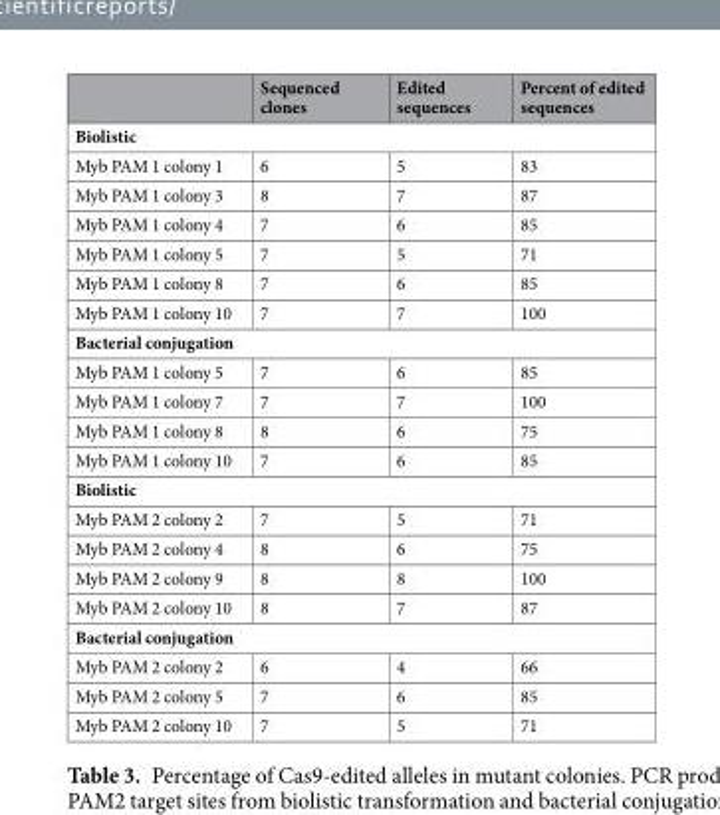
<table><thead><tr><td></td><td>Sequenced clones</td><td>Edited sequences</td><td>Percent of edited sequences</td></tr></thead><tbody><tr><td colspan="4">Biolistic</td></tr><tr><td>Myb PAM 1 colony 1</td><td>6</td><td>5</td><td>83</td></tr><tr><td>Myb PAM 1 colony 3</td><td>8</td><td>7</td><td>87</td></tr><tr><td>Myb PAM 1 colony 4</td><td>7</td><td>6</td><td>85</td></tr><tr><td>Myb PAM 1 colony 5</td><td>7</td><td>5</td><td>71</td></tr><tr><td>Myb PAM 1 colony 8</td><td>7</td><td>6</td><td>85</td></tr><tr><td>Myb PAM 1 colony 10</td><td>7</td><td>7</td><td>100</td></tr><tr><td colspan="4">Bacterial conjugation</td></tr><tr><td>Myb PAM 1 colony 5</td><td>7</td><td>6</td><td>85</td></tr><tr><td>Myb PAM 1 colony 7</td><td>7</td><td>7</td><td>100</td></tr><tr><td>Myb PAM 1 colony 8</td><td>8</td><td>6</td><td>75</td></tr><tr><td>Myb PAM 1 colony 10</td><td>7</td><td>6</td><td>85</td></tr><tr><td colspan="4">Biolistic</td></tr><tr><td>Myb PAM 2 colony 2</td><td>7</td><td>5</td><td>71</td></tr><tr><td>Myb PAM 2 colony 4</td><td>8</td><td>6</td><td>75</td></tr><tr><td>Myb PAM 2 colony 9</td><td>8</td><td>8</td><td>100</td></tr><tr><td>Myb PAM 2 colony 10</td><td>8</td><td>7</td><td>87</td></tr><tr><td colspan="4">Bacterial conjugation</td></tr><tr><td>Myb PAM 2 colony 2</td><td>6</td><td>4</td><td>66</td></tr><tr><td>Myb PAM 2 colony 5</td><td>7</td><td>6</td><td>85</td></tr><tr><td>Myb PAM 2 colony 10</td><td>7</td><td>5</td><td>71</td></tr></tbody></table>